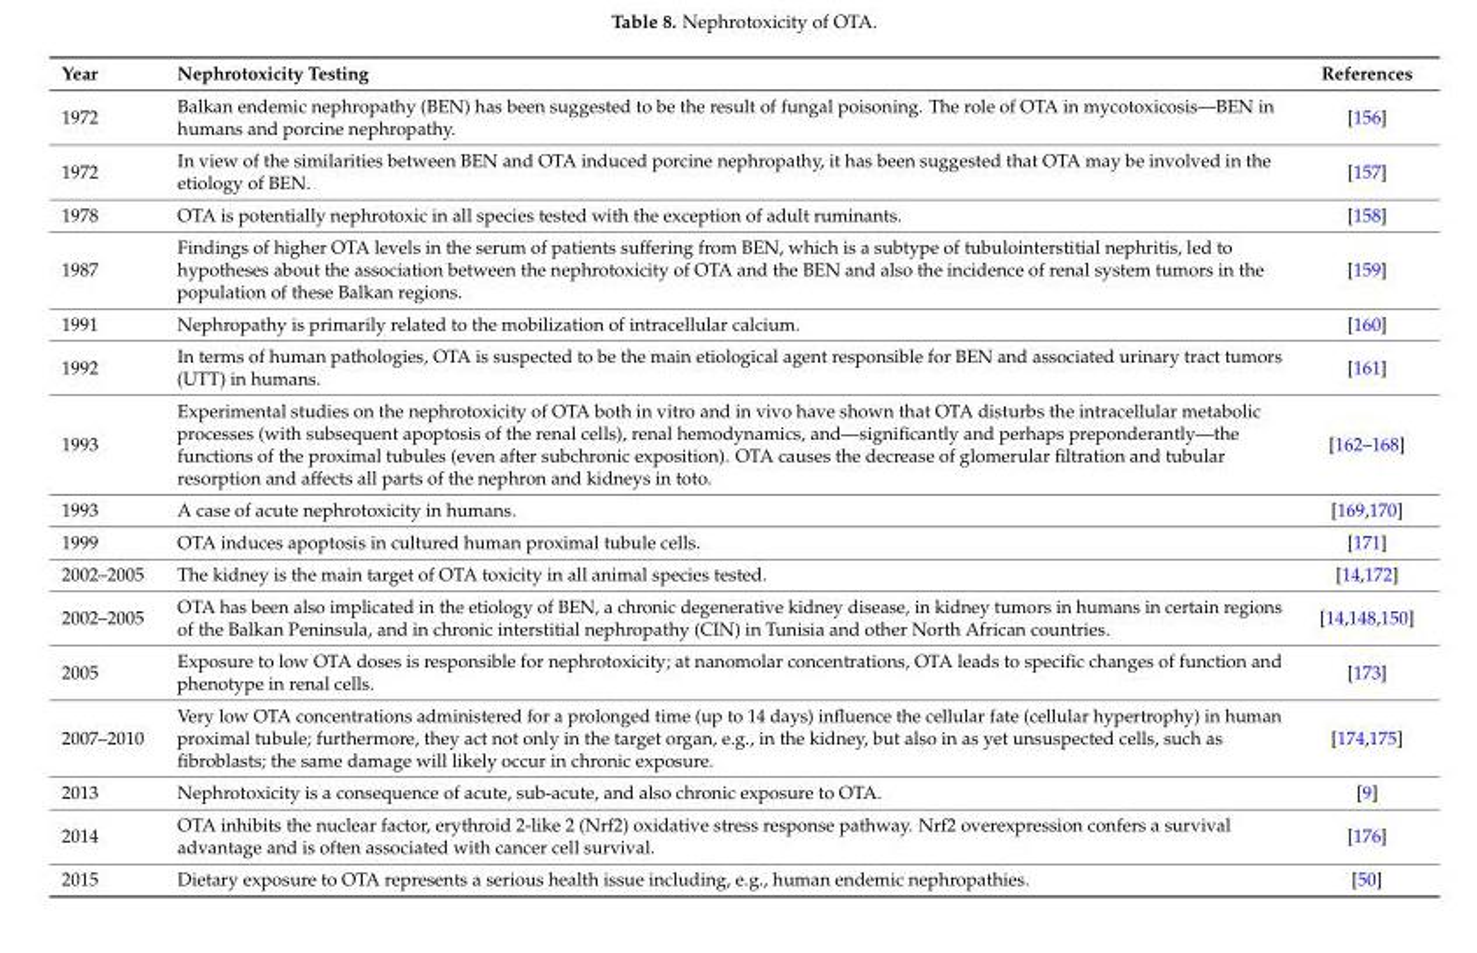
<table><thead><tr><td>Year</td><td>Nephrotoxicity Testing</td><td>References</td></tr></thead><tbody><tr><td>1972</td><td>Balkan endemic nephropathy (BEN) has been suggested to be the result of fungal poisoning. The role of OTA in mycotoxicosis—BEN in humans and porcine nephropathy.</td><td>[156]</td></tr><tr><td>1972</td><td>In view of the similarities between BEN and OTA induced porcine nephropathy, it has been suggested that OTA may be involved in the etiology of BEN.</td><td>[157]</td></tr><tr><td>1978</td><td>OTA is potentially nephrotoxic in all species tested with the exception of adult ruminants.</td><td>[158]</td></tr><tr><td>1987</td><td>Findings of higher OTA levels in the serum of patients suffering from BEN, which is a subtype of tubulointerstitial nephritis, led to hypotheses about the association between the nephrotoxicity of OTA and the BEN and also the incidence of renal system tumors in the population of these Balkan regions.</td><td>[159]</td></tr><tr><td>1991</td><td>Nephropathy is primarily related to the mobilization of intracellular calcium.</td><td>[160]</td></tr><tr><td>1992</td><td>In terms of human pathologies, OTA is suspected to be the main etiological agent responsible for BEN and associated urinary tract tumors (UTT) in humans.</td><td>[161]</td></tr><tr><td>1993</td><td>Experimental studies on the nephrotoxicity of OTA both in vitro and in vivo have shown that OTA disturbs the intracellular metabolic processes (with subsequent apoptosis of the renal cells), renal hemodynamics, and—significantly and perhaps preponderantly—the functions of the proximal tubules (even after subchronic exposition). OTA causes the decrease of glomerular filtration and tubular resorption and affects all parts of the nephron and kidneys in toto.</td><td>[162–168]</td></tr><tr><td>1993</td><td>A case of acute nephrotoxicity in humans.</td><td>[169,170]</td></tr><tr><td>1999</td><td>OTA induces apoptosis in cultured human proximal tubule cells.</td><td>[171]</td></tr><tr><td>2002–2005</td><td>The kidney is the main target of OTA toxicity in all animal species tested.</td><td>[14,172]</td></tr><tr><td>2002–2005</td><td>OTA has been also implicated in the etiology of BEN, a chronic degenerative kidney disease, in kidney tumors in humans in certain regions of the Balkan Peninsula, and in chronic interstitial nephropathy (CIN) in Tunisia and other North African countries.</td><td>[14,148,150]</td></tr><tr><td>2005</td><td>Exposure to low OTA doses is responsible for nephrotoxicity; at nanomolar concentrations, OTA leads to specific changes of function and phenotype in renal cells.</td><td>[173]</td></tr><tr><td>2007–2010</td><td>Very low OTA concentrations administered for a prolonged time (up to 14 days) influence the cellular fate (cellular hypertrophy) in human proximal tubule; furthermore, they act not only in the target organ, e.g., in the kidney, but also in as yet unsuspected cells, such as fibroblasts; the same damage will likely occur in chronic exposure.</td><td>[174,175]</td></tr><tr><td>2013</td><td>Nephrotoxicity is a consequence of acute, sub-acute, and also chronic exposure to OTA.</td><td>[9]</td></tr><tr><td>2014</td><td>OTA inhibits the nuclear factor, erythroid 2-like 2 (Nrf2) oxidative stress response pathway. Nrf2 overexpression confers a survival advantage and is often associated with cancer cell survival.</td><td>[176]</td></tr><tr><td>2015</td><td>Dietary exposure to OTA represents a serious health issue including, e.g., human endemic nephropathies.</td><td>[50]</td></tr></tbody></table>